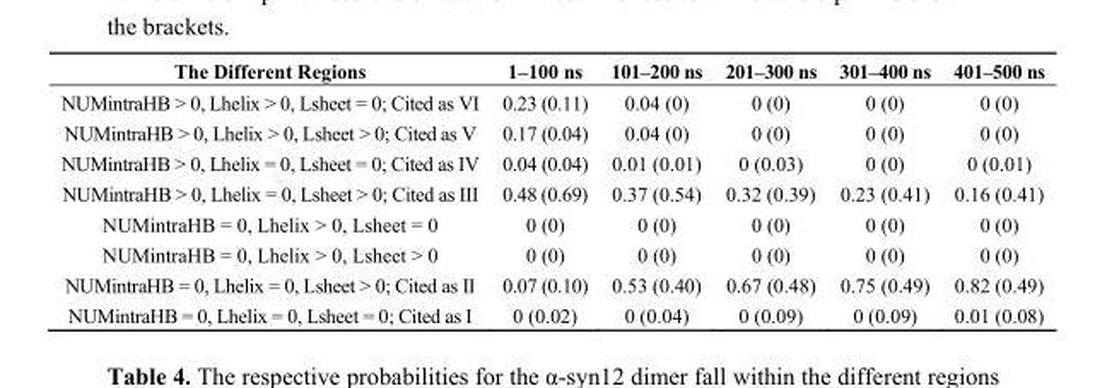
<table><thead><tr><td>The Different Regions</td><td>1–100 ns</td><td>101–200 ns</td><td>201–300 ns</td><td>301–400 ns</td><td>401–500 ns</td></tr></thead><tbody><tr><td>NUMintraHB &gt; 0, Lhelix &gt; 0, Lsheet = 0; Cited as VI</td><td>0.23 (0.11)</td><td>0.04 (0)</td><td>0 (0)</td><td>0 (0)</td><td>0 (0)</td></tr><tr><td>NUMintraHB &gt; 0, Lhelix &gt; 0, Lsheet &gt; 0; Cited as V</td><td>0.17 (0.04)</td><td>0.04 (0)</td><td>0 (0)</td><td>0 (0)</td><td>0 (0)</td></tr><tr><td>NUMintraHB &gt; 0, Lhelix = 0, Lsheet = 0; Cited as IV</td><td>0.04 (0.04)</td><td>0.01 (0.01)</td><td>0 (0.03)</td><td>0 (0)</td><td>0 (0.01)</td></tr><tr><td>NUMintraHB &gt; 0, Lhelix = 0, Lsheet &gt; 0; Cited as III</td><td>0.48 (0.69)</td><td>0.37 (0.54)</td><td>0.32 (0.39)</td><td>0.23 (0.41)</td><td>0.16 (0.41)</td></tr><tr><td>NUMintraHB = 0, Lhelix &gt; 0, Lsheet = 0</td><td>0 (0)</td><td>0 (0)</td><td>0 (0)</td><td>0 (0)</td><td>0 (0)</td></tr><tr><td>NUMintraHB = 0, Lhelix &gt; 0, Lsheet &gt; 0</td><td>0 (0)</td><td>0 (0)</td><td>0 (0)</td><td>0 (0)</td><td>0 (0)</td></tr><tr><td>NUMintraHB = 0, Lhelix = 0, Lsheet &gt; 0; Cited as II</td><td>0.07 (0.10)</td><td>0.53 (0.40)</td><td>0.67 (0.48)</td><td>0.75 (0.49)</td><td>0.82 (0.49)</td></tr><tr><td>NUMintraHB = 0, Lhelix = 0, Lsheet = 0; Cited as I</td><td>0 (0.02)</td><td>0 (0.04)</td><td>0 (0.09)</td><td>0 (0.09)</td><td>0.01 (0.08)</td></tr></tbody></table>